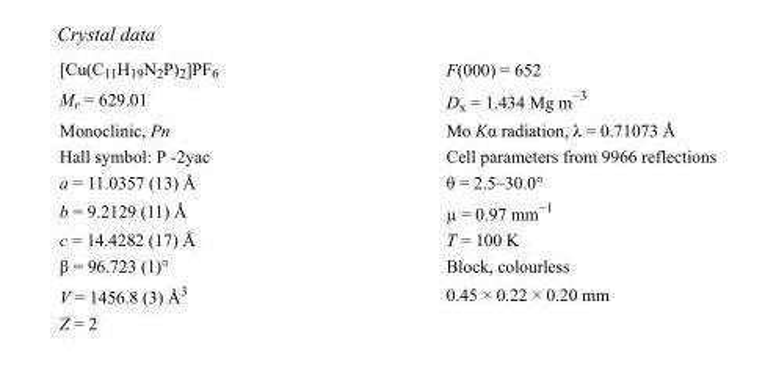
<table><tbody><tr><td>[Cu(C<sub>11</sub>H<sub>19</sub>N<sub>2</sub>P)<sub>2</sub>]PF<sub>6</sub></td><td>F(000) = 652</td></tr><tr><td>M<sub>r</sub> = 629.01</td><td>D<sub>x</sub> = 1.434 Mg m<sup>−3</sup></td></tr><tr><td>Monoclinic, Pn</td><td>Mo Kα radiation, λ = 0.71073 Å</td></tr><tr><td>Hall symbol: P -2yac</td><td>Cell parameters from 9966 reflections</td></tr><tr><td>a = 11.0357 (13) Å</td><td>θ = 2.5–30.0°</td></tr><tr><td>b = 9.2129 (11) Å</td><td>µ = 0.97 mm<sup>−1</sup></td></tr><tr><td>c = 14.4282 (17) Å</td><td>T = 100 K</td></tr><tr><td>β = 96.723 (1)°</td><td>Block, colourless</td></tr><tr><td>V = 1456.8 (3) Å<sup>3</sup></td><td>0.45 × 0.22 × 0.20 mm</td></tr><tr><td>Z = 2</td><td></td></tr></tbody></table>